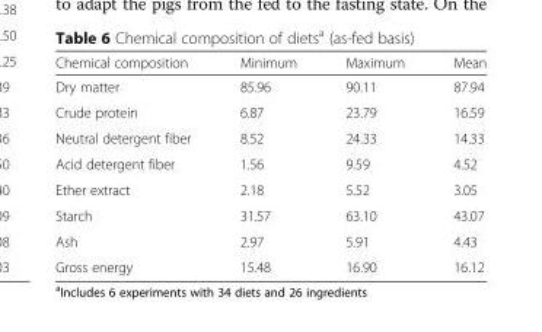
<table><thead><tr><td>Chemical composition</td><td>Minimum</td><td>Maximum</td><td>Mean</td></tr></thead><tbody><tr><td>Dry matter</td><td>85.96</td><td>90.11</td><td>87.94</td></tr><tr><td>Crude protein</td><td>6.87</td><td>23.79</td><td>16.59</td></tr><tr><td>Neutral detergent fiber</td><td>8.52</td><td>24.33</td><td>14.33</td></tr><tr><td>Acid detergent fiber</td><td>1.56</td><td>9.59</td><td>4.52</td></tr><tr><td>Ether extract</td><td>2.18</td><td>5.52</td><td>3.05</td></tr><tr><td>Starch</td><td>31.57</td><td>63.10</td><td>43.07</td></tr><tr><td>Ash</td><td>2.97</td><td>5.91</td><td>4.43</td></tr><tr><td>Gross energy</td><td>15.48</td><td>16.90</td><td>16.12</td></tr></tbody></table>